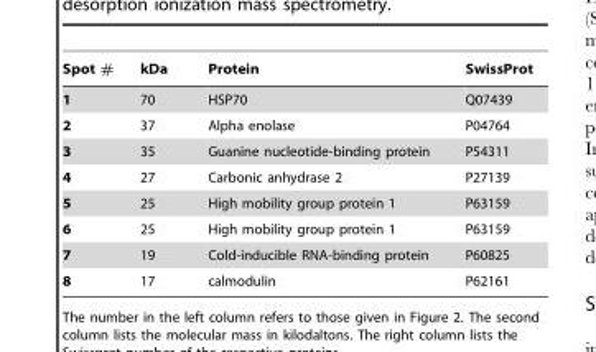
<table><thead><tr><td>Spot #</td><td>kDa</td><td>Protein</td><td>SwissProt</td></tr></thead><tbody><tr><td>1</td><td>70</td><td>HSP70</td><td>Q07439</td></tr><tr><td>2</td><td>37</td><td>Alpha enolase</td><td>P04764</td></tr><tr><td>3</td><td>35</td><td>Guanine nucleotide-binding protein</td><td>P54311</td></tr><tr><td>4</td><td>27</td><td>Carbonic anhydrase 2</td><td>P27139</td></tr><tr><td>5</td><td>25</td><td>High mobility group protein 1</td><td>P63159</td></tr><tr><td>6</td><td>25</td><td>High mobility group protein 1</td><td>P63159</td></tr><tr><td>7</td><td>19</td><td>Cold-inducible RNA-binding protein</td><td>P60825</td></tr><tr><td>8</td><td>17</td><td>calmodulin</td><td>P62161</td></tr></tbody></table>